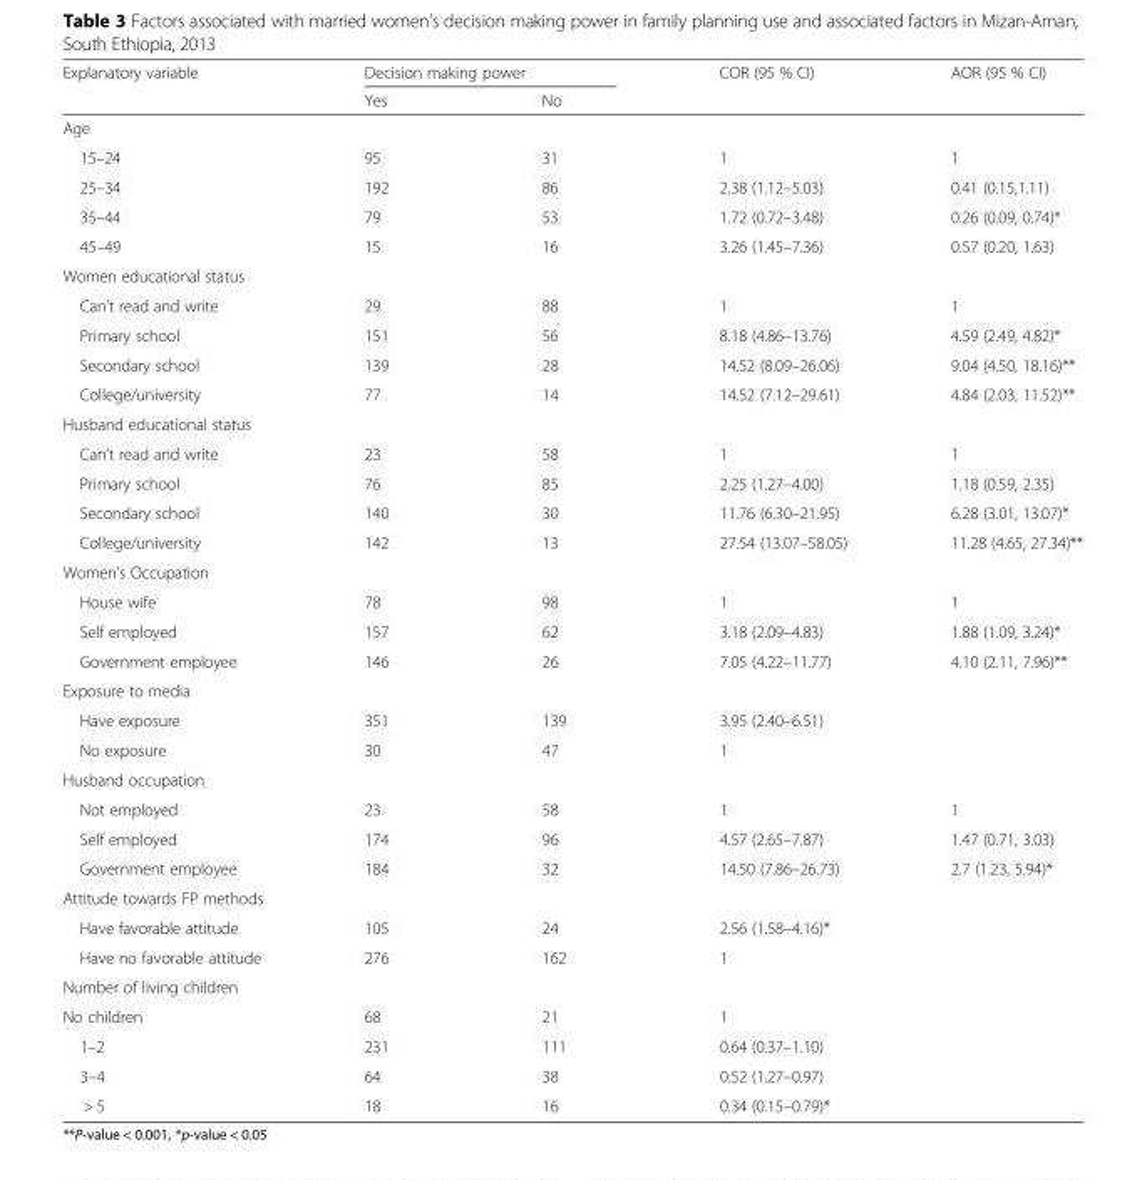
<table><thead><tr><td rowspan="2">Explanatory variable</td><td colspan="2">Decision making power</td><td rowspan="2">COR (95 % CI)</td><td rowspan="2">AOR (95 % CI)</td></tr><tr><td>Yes</td><td>No</td></tr></thead><tbody><tr><td colspan="5">Age</td></tr><tr><td>15–24</td><td>95</td><td>31</td><td>1</td><td>1</td></tr><tr><td>25–34</td><td>192</td><td>86</td><td>2.38 (1.12–5.03)</td><td>0.41 (0.15,1.11)</td></tr><tr><td>35–44</td><td>79</td><td>53</td><td>1.72 (0.72–3.48)</td><td>0.26 (0.09, 0.74)*</td></tr><tr><td>45–49</td><td>15</td><td>16</td><td>3.26 (1.45–7.36)</td><td>0.57 (0.20, 1.63)</td></tr><tr><td colspan="5">Women educational status</td></tr><tr><td>Can’t read and write</td><td>29</td><td>88</td><td>1</td><td>1</td></tr><tr><td>Primary school</td><td>151</td><td>56</td><td>8.18 (4.86–13.76)</td><td>4.59 (2.49, 4.82)*</td></tr><tr><td>Secondary school</td><td>139</td><td>28</td><td>14.52 (8.09–26.06)</td><td>9.04 (4.50, 18.16)**</td></tr><tr><td>College/university</td><td>77</td><td>14</td><td>14.52 (7.12–29.61)</td><td>4.84 (2.03, 11.52)**</td></tr><tr><td colspan="5">Husband educational status</td></tr><tr><td>Can’t read and write</td><td>23</td><td>58</td><td>1</td><td>1</td></tr><tr><td>Primary school</td><td>76</td><td>85</td><td>2.25 (1.27–4.00)</td><td>1.18 (0.59, 2.35)</td></tr><tr><td>Secondary school</td><td>140</td><td>30</td><td>11.76 (6.30–21.95)</td><td>6.28 (3.01, 13.07)*</td></tr><tr><td>College/university</td><td>142</td><td>13</td><td>27.54 (13.07–58.05)</td><td>11.28 (4.65, 27.34)**</td></tr><tr><td colspan="5">Women’s Occupation</td></tr><tr><td>House wife</td><td>78</td><td>98</td><td>1</td><td>1</td></tr><tr><td>Self employed</td><td>157</td><td>62</td><td>3.18 (2.09–4.83)</td><td>1.88 (1.09, 3.24)*</td></tr><tr><td>Government employee</td><td>146</td><td>26</td><td>7.05 (4.22–11.77)</td><td>4.10 (2.11, 7.96)**</td></tr><tr><td colspan="5">Exposure to media</td></tr><tr><td>Have exposure</td><td>351</td><td>139</td><td>3.95 (2.40–6.51)</td><td></td></tr><tr><td>No exposure</td><td>30</td><td>47</td><td>1</td><td></td></tr><tr><td colspan="5">Husband occupation</td></tr><tr><td>Not employed</td><td>23</td><td>58</td><td>1</td><td>1</td></tr><tr><td>Self employed</td><td>174</td><td>96</td><td>4.57 (2.65–7.87)</td><td>1.47 (0.71, 3.03)</td></tr><tr><td>Government employee</td><td>184</td><td>32</td><td>14.50 (7.86–26.73)</td><td>2.7 (1.23, 5.94)*</td></tr><tr><td colspan="5">Attitude towards FP methods</td></tr><tr><td>Have favorable attitude</td><td>105</td><td>24</td><td>2.56 (1.58–4.16)*</td><td></td></tr><tr><td>Have no favorable attitude</td><td>276</td><td>162</td><td>1</td><td></td></tr><tr><td colspan="5">Number of living children</td></tr><tr><td>No children</td><td>68</td><td>21</td><td>1</td><td></td></tr><tr><td>1–2</td><td>231</td><td>111</td><td>0.64 (0.37–1.10)</td><td></td></tr><tr><td>3–4</td><td>64</td><td>38</td><td>0.52 (1.27–0.97)</td><td></td></tr><tr><td>&gt; 5</td><td>18</td><td>16</td><td>0.34 (0.15–0.79)*</td><td></td></tr></tbody></table>